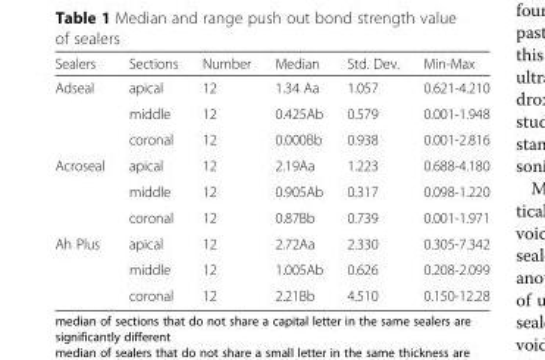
<table><thead><tr><td>Sealers</td><td>Sections</td><td>Number</td><td>Median</td><td>Std. Dev.</td><td>Min-Max</td></tr></thead><tbody><tr><td rowspan="3">Adseal</td><td>apical</td><td>12</td><td>1.34 Aa</td><td>1.057</td><td>0.621-4.210</td></tr><tr><td>middle</td><td>12</td><td>0.425Ab</td><td>0.579</td><td>0.001-1.948</td></tr><tr><td>coronal</td><td>12</td><td>0.000Bb</td><td>0.938</td><td>0.001-2.816</td></tr><tr><td rowspan="3">Acroseal</td><td>apical</td><td>12</td><td>2.19Aa</td><td>1.223</td><td>0.688-4.180</td></tr><tr><td>middle</td><td>12</td><td>0.905Ab</td><td>0.317</td><td>0.098-1.220</td></tr><tr><td>coronal</td><td>12</td><td>0.87Bb</td><td>0.739</td><td>0.001-1.971</td></tr><tr><td rowspan="3">Ah Plus</td><td>apical</td><td>12</td><td>2.72Aa</td><td>2.330</td><td>0.305-7.342</td></tr><tr><td>middle</td><td>12</td><td>1.005Ab</td><td>0.626</td><td>0.208-2.099</td></tr><tr><td>coronal</td><td>12</td><td>2.21Bb</td><td>4.510</td><td>0.150-12.28</td></tr></tbody></table>